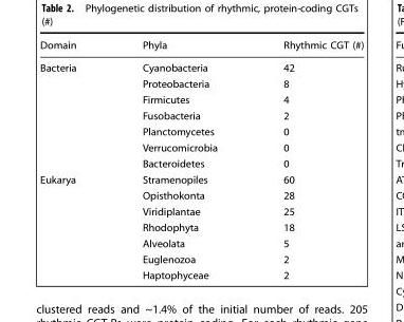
<table><thead><tr><td>Domain</td><td>Phyla</td><td>Rhythmic CGT (#)</td></tr></thead><tbody><tr><td rowspan="7">Bacteria</td><td>Cyanobacteria</td><td>42</td></tr><tr><td>Proteobacteria</td><td>8</td></tr><tr><td>Firmicutes</td><td>4</td></tr><tr><td>Fusobacteria</td><td>2</td></tr><tr><td>Planctomycetes</td><td>0</td></tr><tr><td>Verrucomicrobia</td><td>0</td></tr><tr><td>Bacteroidetes</td><td>0</td></tr><tr><td rowspan="7">Eukarya</td><td>Stramenopiles</td><td>60</td></tr><tr><td>Opisthokonta</td><td>28</td></tr><tr><td>Viridiplantae</td><td>25</td></tr><tr><td>Rhodophyta</td><td>18</td></tr><tr><td>Alveolata</td><td>5</td></tr><tr><td>Euglenozoa</td><td>2</td></tr><tr><td>Haptophyceae</td><td>2</td></tr></tbody></table>